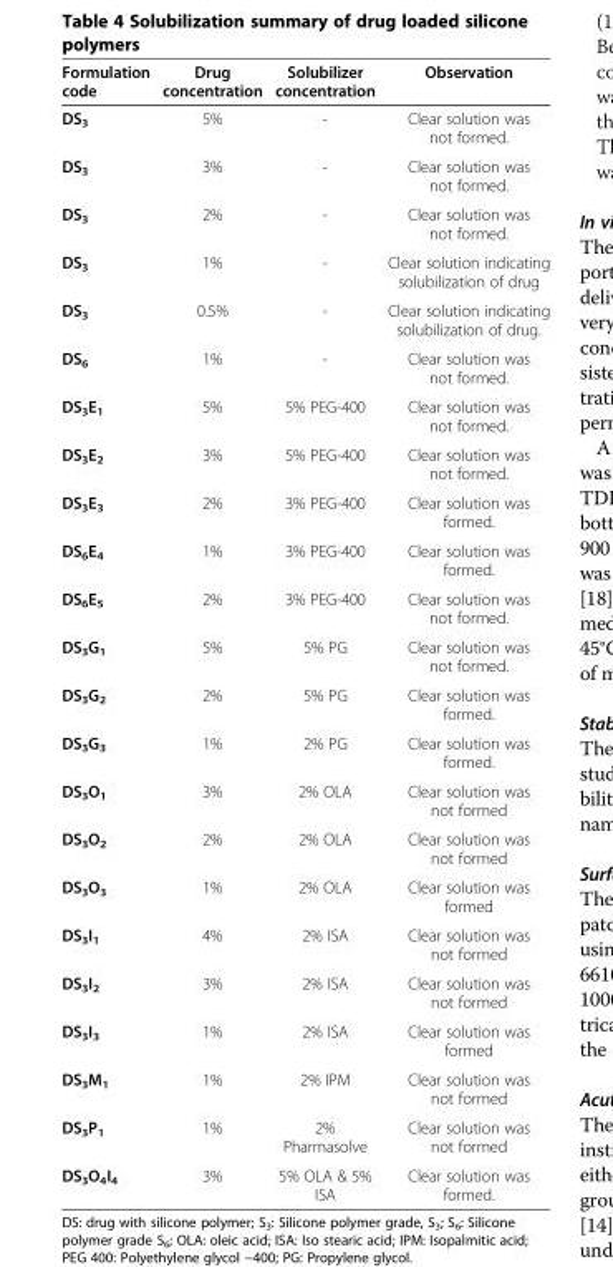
<table><thead><tr><td>Formulation code</td><td>Drug concentration</td><td>Solubilizer concentration</td><td>Observation</td></tr></thead><tbody><tr><td>DS<sub>3</sub></td><td>5%</td><td>-</td><td>Clear solution was not formed.</td></tr><tr><td>DS<sub>3</sub></td><td>3%</td><td>-</td><td>Clear solution was not formed.</td></tr><tr><td>DS<sub>3</sub></td><td>2%</td><td>-</td><td>Clear solution was not formed.</td></tr><tr><td>DS<sub>3</sub></td><td>1%</td><td>-</td><td>Clear solution indicating solubilization of drug</td></tr><tr><td>DS<sub>3</sub></td><td>0.5%</td><td>-</td><td>Clear solution indicating solubilization of drug.</td></tr><tr><td>DS<sub>6</sub></td><td>1%</td><td>-</td><td>Clear solution was not formed.</td></tr><tr><td>DS<sub>3</sub>E<sub>1</sub></td><td>5%</td><td>5% PEG-400</td><td>Clear solution was not formed.</td></tr><tr><td>DS<sub>3</sub>E<sub>2</sub></td><td>3%</td><td>5% PEG-400</td><td>Clear solution was not formed.</td></tr><tr><td>DS<sub>3</sub>E<sub>3</sub></td><td>2%</td><td>3% PEG-400</td><td>Clear solution was formed.</td></tr><tr><td>DS<sub>6</sub>E<sub>4</sub></td><td>1%</td><td>3% PEG-400</td><td>Clear solution was formed.</td></tr><tr><td>DS<sub>6</sub>E<sub>5</sub></td><td>2%</td><td>3% PEG-400</td><td>Clear solution was not formed.</td></tr><tr><td>DS<sub>3</sub>G<sub>1</sub></td><td>5%</td><td>5% PG</td><td>Clear solution was not formed.</td></tr><tr><td>DS<sub>3</sub>G<sub>2</sub></td><td>2%</td><td>5% PG</td><td>Clear solution was formed.</td></tr><tr><td>DS<sub>3</sub>G<sub>3</sub></td><td>1%</td><td>2% PG</td><td>Clear solution was formed.</td></tr><tr><td>DS<sub>3</sub>O<sub>1</sub></td><td>3%</td><td>2% OLA</td><td>Clear solution was not formed</td></tr><tr><td>DS<sub>3</sub>O<sub>2</sub></td><td>2%</td><td>2% OLA</td><td>Clear solution was not formed</td></tr><tr><td>DS<sub>3</sub>O<sub>3</sub></td><td>1%</td><td>2% OLA</td><td>Clear solution was formed</td></tr><tr><td>DS<sub>3</sub>I<sub>1</sub></td><td>4%</td><td>2% ISA</td><td>Clear solution was not formed</td></tr><tr><td>DS<sub>3</sub>I<sub>2</sub></td><td>3%</td><td>2% ISA</td><td>Clear solution was not formed</td></tr><tr><td>DS<sub>3</sub>I<sub>3</sub></td><td>1%</td><td>2% ISA</td><td>Clear solution was formed</td></tr><tr><td>DS<sub>3</sub>M<sub>1</sub></td><td>1%</td><td>2% IPM</td><td>Clear solution was not formed</td></tr><tr><td>DS<sub>3</sub>P<sub>1</sub></td><td>1%</td><td>2% Pharmasolve</td><td>Clear solution was not formed</td></tr><tr><td>DS<sub>3</sub>O<sub>4</sub>I<sub>4</sub></td><td>3%</td><td>5% OLA &amp; 5% ISA</td><td>Clear solution was formed.</td></tr></tbody></table>